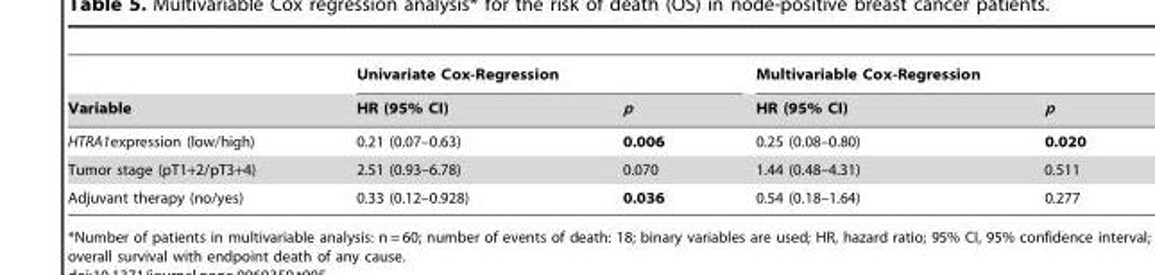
<table><thead><tr><td rowspan="2">Variable</td><td colspan="2">Univariate Cox-Regression</td><td colspan="2">Multivariable Cox-Regression</td></tr><tr><td>HR (95% CI)</td><td>p</td><td>HR (95% CI)</td><td>p</td></tr></thead><tbody><tr><td>HTRA1expression (low/high)</td><td>0.21 (0.07–0.63)</td><td>0.006</td><td>0.25 (0.08–0.80)</td><td>0.020</td></tr><tr><td>Tumor stage (pT1+2/pT3+4)</td><td>2.51 (0.93–6.78)</td><td>0.070</td><td>1.44 (0.48–4.31)</td><td>0.511</td></tr><tr><td>Adjuvant therapy (no/yes)</td><td>0.33 (0.12–0.928)</td><td>0.036</td><td>0.54 (0.18–1.64)</td><td>0.277</td></tr></tbody></table>